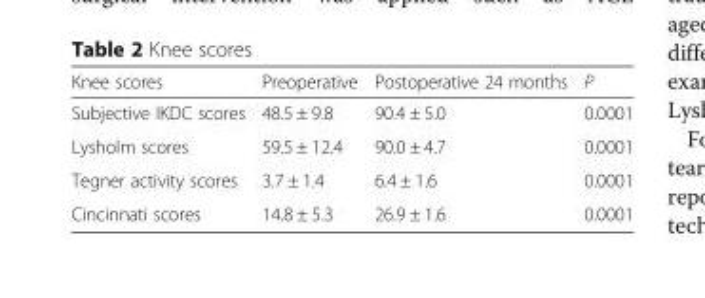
<table><thead><tr><td>Knee scores</td><td>Preoperative</td><td>Postoperative 24 months</td><td>P</td></tr></thead><tbody><tr><td>Subjective IKDC scores</td><td>48.5 ± 9.8</td><td>90.4 ± 5.0</td><td>0.0001</td></tr><tr><td>Lysholm scores</td><td>59.5 ± 12.4</td><td>90.0 ± 4.7</td><td>0.0001</td></tr><tr><td>Tegner activity scores</td><td>3.7 ± 1.4</td><td>6.4 ± 1.6</td><td>0.0001</td></tr><tr><td>Cincinnati scores</td><td>14.8 ± 5.3</td><td>26.9 ± 1.6</td><td>0.0001</td></tr></tbody></table>